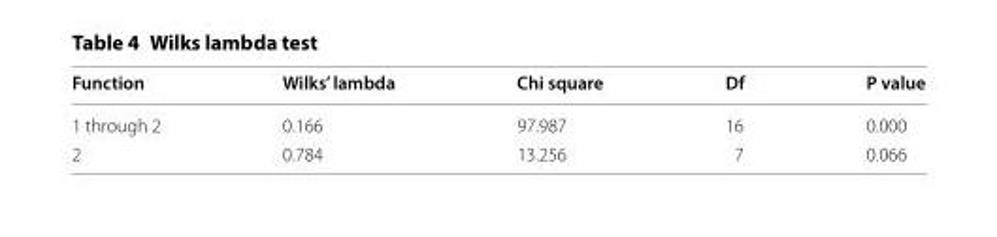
<table><thead><tr><td>Function</td><td>Wilks’ lambda</td><td>Chi square</td><td>Df</td><td>P value</td></tr></thead><tbody><tr><td>1 through 2</td><td>0.166</td><td>97.987</td><td>16</td><td>0.000</td></tr><tr><td>2</td><td>0.784</td><td>13.256</td><td>7</td><td>0.066</td></tr></tbody></table>